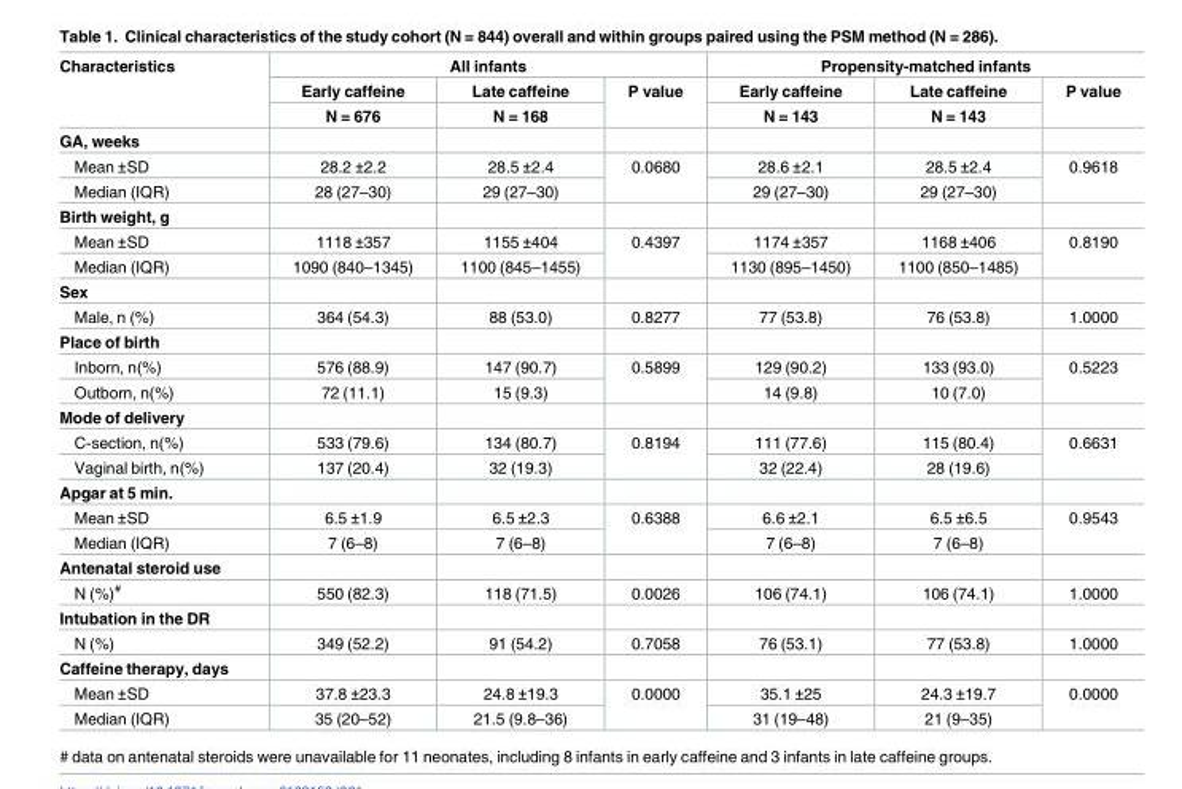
<table><thead><tr><td rowspan="3">Characteristics</td><td colspan="3">All infants</td><td colspan="3">Propensity-matched infants</td></tr><tr><td rowspan="2">Early caffeine N = 676</td><td rowspan="2">Late caffeine N = 168</td><td rowspan="2">P value</td><td rowspan="2">Early caffeine N = 143</td><td rowspan="2">Late caffeine N = 143</td><td rowspan="2">P value</td></tr><tr></tr></thead><tbody><tr><td colspan="7">GA, weeks</td></tr><tr><td>Mean ±SD</td><td>28.2 ±2.2</td><td>28.5 ±2.4</td><td rowspan="2">0.0680</td><td>28.6 ±2.1</td><td>28.5 ±2.4</td><td rowspan="2">0.9618</td></tr><tr><td>Median (IQR)</td><td>28 (27–30)</td><td>29 (27–30)</td><td>29 (27–30)</td><td>29 (27–30)</td></tr><tr><td colspan="7">Birth weight, g</td></tr><tr><td>Mean ±SD</td><td>1118 ±357</td><td>1155 ±404</td><td rowspan="2">0.4397</td><td>1174 ±357</td><td>1168 ±406</td><td rowspan="2">0.8190</td></tr><tr><td>Median (IQR)</td><td>1090 (840–1345)</td><td>1100 (845–1455)</td><td>1130 (895–1450)</td><td>1100 (850–1485)</td></tr><tr><td colspan="7">Sex</td></tr><tr><td>Male, n (%)</td><td>364 (54.3)</td><td>88 (53.0)</td><td>0.8277</td><td>77 (53.8)</td><td>76 (53.8)</td><td>1.0000</td></tr><tr><td colspan="7">Place of birth</td></tr><tr><td>Inborn, n(%)</td><td>576 (88.9)</td><td>147 (90.7)</td><td rowspan="2">0.5899</td><td>129 (90.2)</td><td>133 (93.0)</td><td rowspan="2">0.5223</td></tr><tr><td>Outborn, n(%)</td><td>72 (11.1)</td><td>15 (9.3)</td><td>14 (9.8)</td><td>10 (7.0)</td></tr><tr><td colspan="7">Mode of delivery</td></tr><tr><td>C-section, n(%)</td><td>533 (79.6)</td><td>134 (80.7)</td><td rowspan="2">0.8194</td><td>111 (77.6)</td><td>115 (80.4)</td><td rowspan="2">0.6631</td></tr><tr><td>Vaginal birth, n(%)</td><td>137 (20.4)</td><td>32 (19.3)</td><td>32 (22.4)</td><td>28 (19.6)</td></tr><tr><td colspan="7">Apgar at 5 min.</td></tr><tr><td>Mean ±SD</td><td>6.5 ±1.9</td><td>6.5 ±2.3</td><td rowspan="2">0.6388</td><td>6.6 ±2.1</td><td>6.5 ±6.5</td><td rowspan="2">0.9543</td></tr><tr><td>Median (IQR)</td><td>7 (6–8)</td><td>7 (6–8)</td><td>7 (6–8)</td><td>7 (6–8)</td></tr><tr><td colspan="7">Antenatal steroid use</td></tr><tr><td>N (%)<sup>#</sup></td><td>550 (82.3)</td><td>118 (71.5)</td><td>0.0026</td><td>106 (74.1)</td><td>106 (74.1)</td><td>1.0000</td></tr><tr><td colspan="7">Intubation in the DR</td></tr><tr><td>N (%)</td><td>349 (52.2)</td><td>91 (54.2)</td><td>0.7058</td><td>76 (53.1)</td><td>77 (53.8)</td><td>1.0000</td></tr><tr><td colspan="7">Caffeine therapy, days</td></tr><tr><td>Mean ±SD</td><td>37.8 ±23.3</td><td>24.8 ±19.3</td><td rowspan="2">0.0000</td><td>35.1 ±25</td><td>24.3 ±19.7</td><td rowspan="2">0.0000</td></tr><tr><td>Median (IQR)</td><td>35 (20–52)</td><td>21.5 (9.8–36)</td><td>31 (19–48)</td><td>21 (9–35)</td></tr></tbody></table>